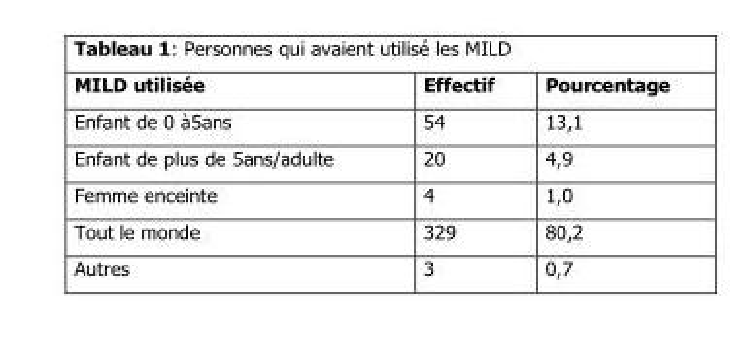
<table><thead><tr><td>MILD utilisée</td><td>Effectif</td><td>Pourcentage</td></tr></thead><tbody><tr><td>Enfant de 0 à5ans</td><td>54</td><td>13,1</td></tr><tr><td>Enfant de plus de 5ans/adulte</td><td>20</td><td>4,9</td></tr><tr><td>Femme enceinte</td><td>4</td><td>1,0</td></tr><tr><td>Tout le monde</td><td>329</td><td>80,2</td></tr><tr><td>Autres</td><td>3</td><td>0,7</td></tr></tbody></table>